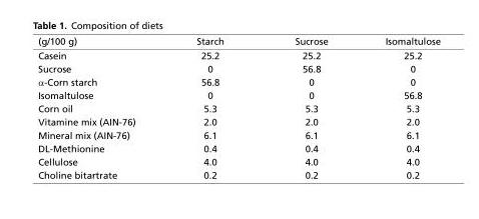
<table><thead><tr><td>(g/100 g)</td><td>Starch</td><td>Sucrose</td><td>Isomaltulose</td></tr></thead><tbody><tr><td>Casein</td><td>25.2</td><td>25.2</td><td>25.2</td></tr><tr><td>Sucrose</td><td>0</td><td>56.8</td><td>0</td></tr><tr><td>α-Corn starch</td><td>56.8</td><td>0</td><td>0</td></tr><tr><td>Isomaltulose</td><td>0</td><td>0</td><td>56.8</td></tr><tr><td>Corn oil</td><td>5.3</td><td>5.3</td><td>5.3</td></tr><tr><td>Vitamine mix (AIN-76)</td><td>2.0</td><td>2.0</td><td>2.0</td></tr><tr><td>Mineral mix (AIN-76)</td><td>6.1</td><td>6.1</td><td>6.1</td></tr><tr><td>DL-Methionine</td><td>0.4</td><td>0.4</td><td>0.4</td></tr><tr><td>Cellulose</td><td>4.0</td><td>4.0</td><td>4.0</td></tr><tr><td>Choline bitartrate</td><td>0.2</td><td>0.2</td><td>0.2</td></tr></tbody></table>